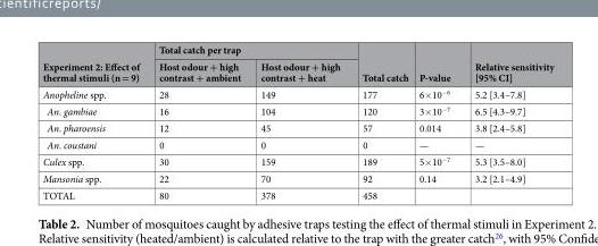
<table><thead><tr><td rowspan="2">Experiment 2: Effect of thermal stimuli (n = 9)</td><td colspan="2">Total catch per trap</td><td rowspan="2">Total catch</td><td rowspan="2">P-value</td><td rowspan="2">Relative sensitivity [95% CI]</td></tr><tr><td>Host odour + high contrast + ambient</td><td>Host odour + high contrast + heat</td></tr></thead><tbody><tr><td>Anopheline spp.</td><td>28</td><td>149</td><td>177</td><td>6×10<sup>−6</sup></td><td>5.2 [3.4–7.8]</td></tr><tr><td>An. gambiae</td><td>16</td><td>104</td><td>120</td><td>3×10<sup>−7</sup></td><td>6.5 [4.3–9.7]</td></tr><tr><td>An. pharoensis</td><td>12</td><td>45</td><td>57</td><td>0.014</td><td>3.8 [2.4–5.8]</td></tr><tr><td>An. coustani</td><td>0</td><td>0</td><td>0</td><td>—</td><td>—</td></tr><tr><td>Culex spp.</td><td>30</td><td>159</td><td>189</td><td>5×10<sup>−7</sup></td><td>5.3 [3.5–8.0]</td></tr><tr><td>Mansonia spp.</td><td>22</td><td>70</td><td>92</td><td>0.14</td><td>3.2 [2.1–4.9]</td></tr><tr><td>TOTAL</td><td>80</td><td>378</td><td>458</td><td></td><td></td></tr></tbody></table>